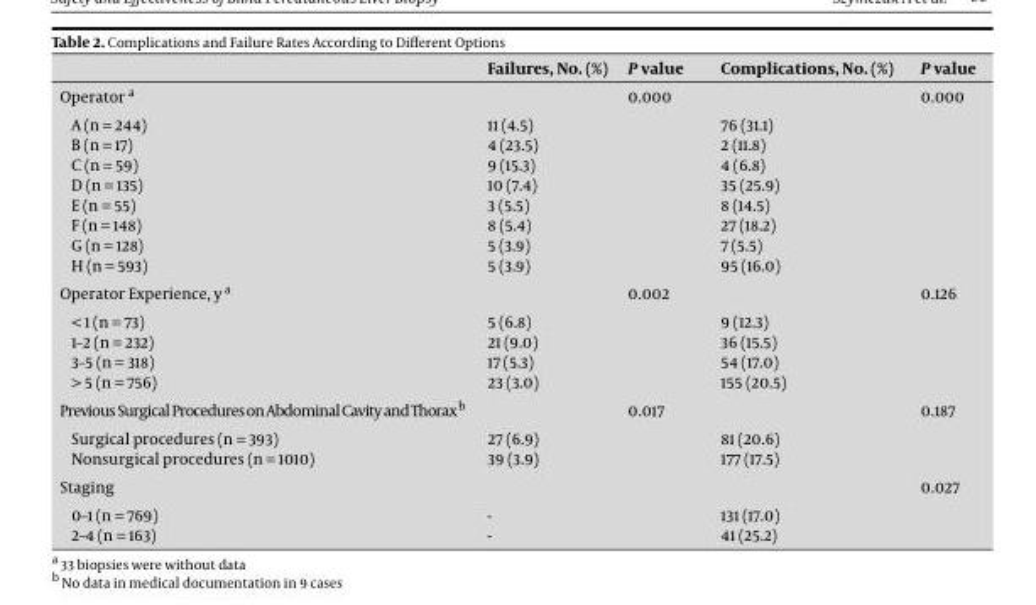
<table><thead><tr><td></td><td>Failures, No. (%)</td><td>P value</td><td>Complications, No. (%)</td><td>P value</td></tr></thead><tbody><tr><td>Operator a</td><td></td><td>0.000</td><td></td><td>0.000</td></tr><tr><td>A (n = 244)</td><td>11 (4.5)</td><td></td><td>76 (31.1)</td><td></td></tr><tr><td>B (n = 17)</td><td>4 (23.5)</td><td></td><td>2 (11.8)</td><td></td></tr><tr><td>C (n = 59)</td><td>9 (15.3)</td><td></td><td>4 (6.8)</td><td></td></tr><tr><td>D (n = 135)</td><td>10 (7.4)</td><td></td><td>35 (25.9)</td><td></td></tr><tr><td>E (n = 55)</td><td>3 (5.5)</td><td></td><td>8 (14.5)</td><td></td></tr><tr><td>F (n = 148)</td><td>8 (5.4)</td><td></td><td>27 (18.2)</td><td></td></tr><tr><td>G (n = 128)</td><td>5 (3.9)</td><td></td><td>7 (5.5)</td><td></td></tr><tr><td>H (n = 593)</td><td>5 (3.9)</td><td></td><td>95 (16.0)</td><td></td></tr><tr><td>Operator Experience, y a</td><td></td><td>0.002</td><td></td><td>0.126</td></tr><tr><td>&lt; 1 (n = 73)</td><td>5 (6.8)</td><td></td><td>9 (12.3)</td><td></td></tr><tr><td>1–2 (n = 232)</td><td>21 (9.0)</td><td></td><td>36 (15.5)</td><td></td></tr><tr><td>3–5 (n = 318)</td><td>17 (5.3)</td><td></td><td>54 (17.0)</td><td></td></tr><tr><td>&gt; 5 (n = 756)</td><td>23 (3.0)</td><td></td><td>155 (20.5)</td><td></td></tr><tr><td>Previous Surgical Procedures on Abdominal Cavity and Thorax b</td><td></td><td>0.017</td><td></td><td>0.187</td></tr><tr><td>Surgical procedures (n = 393)</td><td>27 (6.9)</td><td></td><td>81 (20.6)</td><td></td></tr><tr><td>Nonsurgical procedures (n = 1010)</td><td>39 (3.9)</td><td></td><td>177 (17.5)</td><td></td></tr><tr><td>Staging</td><td></td><td></td><td></td><td>0.027</td></tr><tr><td>0–1 (n = 769)</td><td>-</td><td></td><td>131 (17.0)</td><td></td></tr><tr><td>2–4 (n = 163)</td><td>-</td><td></td><td>41 (25.2)</td><td></td></tr></tbody></table>